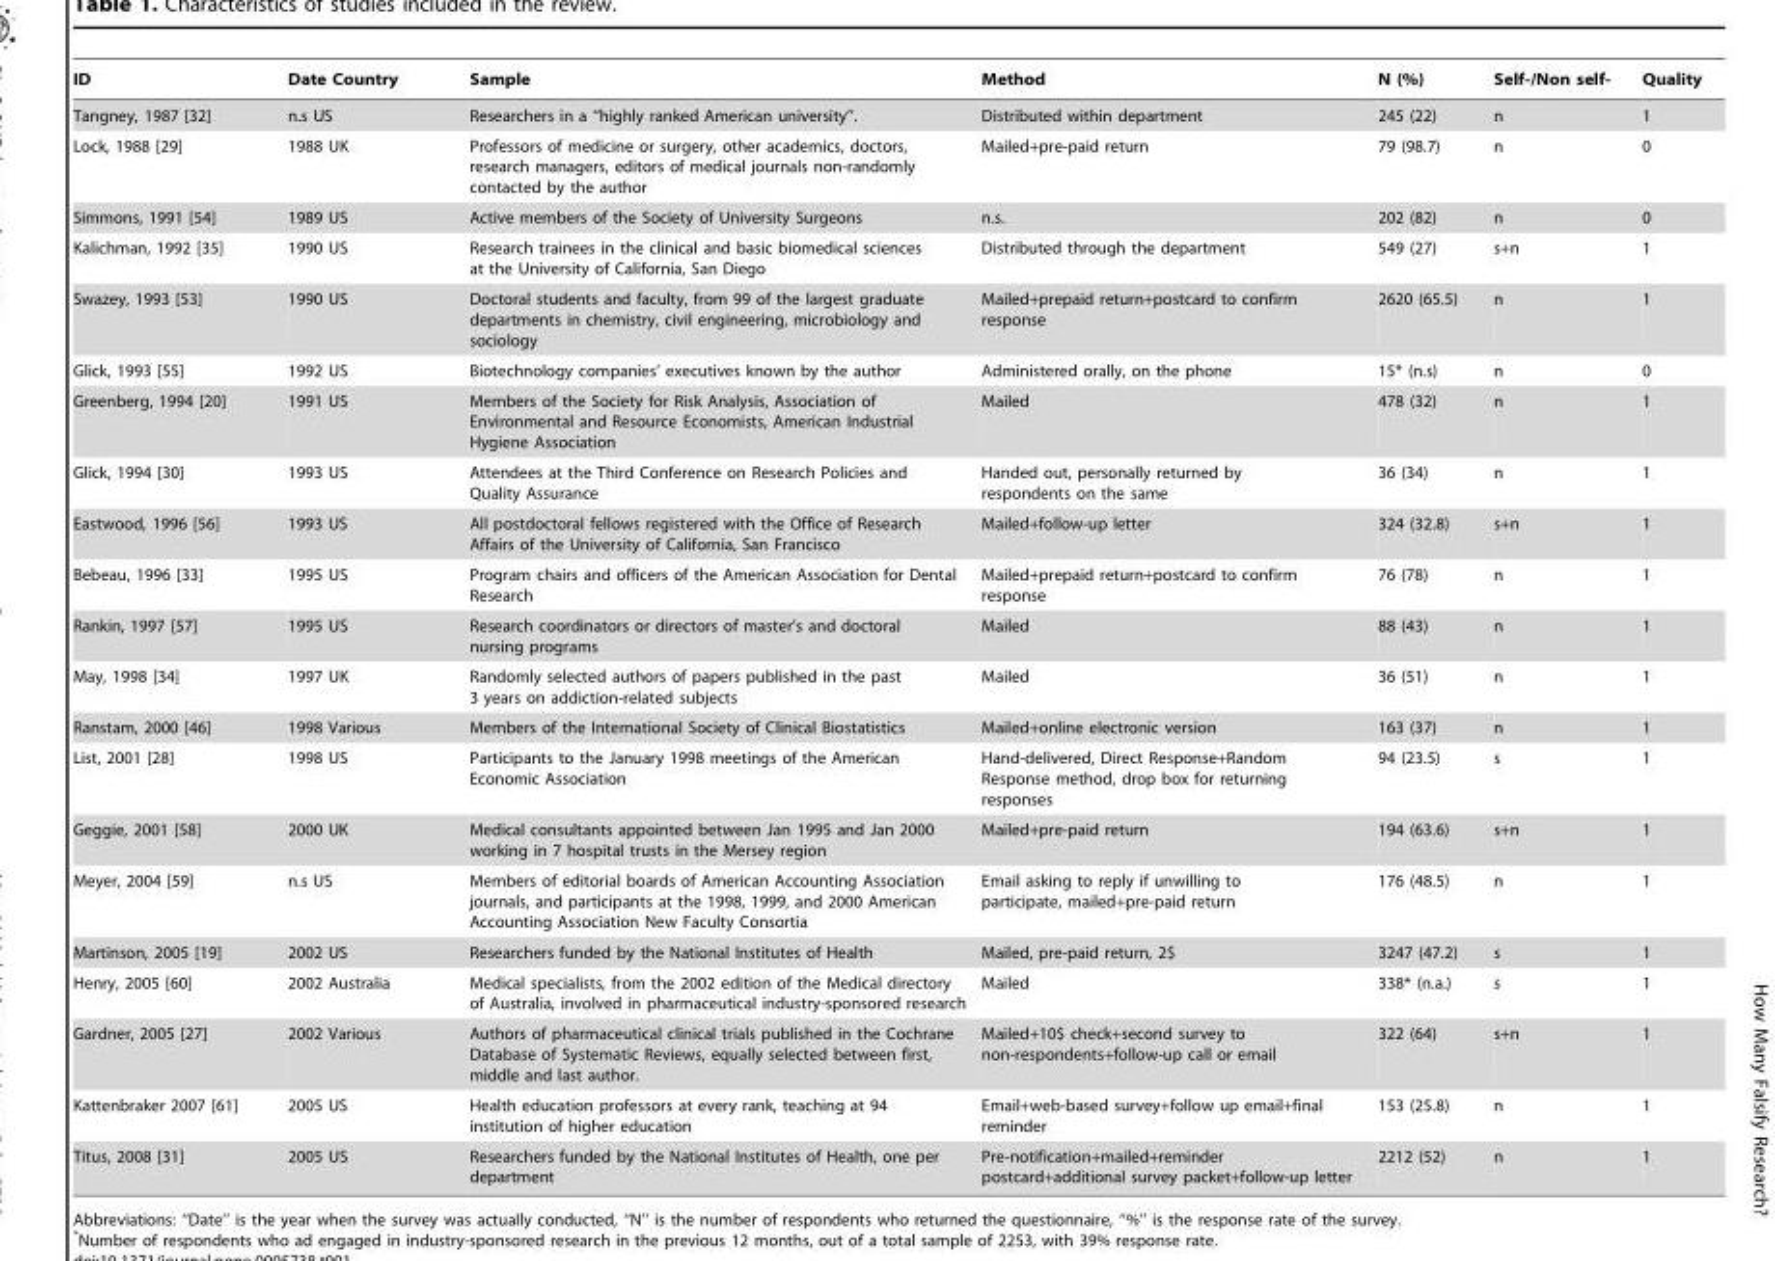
<table><thead><tr><td>ID</td><td>Date Country</td><td>Sample</td><td>Method</td><td>N (%)</td><td>Self-/Non self-</td><td>Quality</td></tr></thead><tbody><tr><td>Tangney, 1987 [32]</td><td>n.s US</td><td>Researchers in a ‘‘highly ranked American university’’.</td><td>Distributed within department</td><td>245 (22)</td><td>n</td><td>1</td></tr><tr><td>Lock, 1988 [29]</td><td>1988 UK</td><td>Professors of medicine or surgery, other academics, doctors, research managers, editors of medical journals non-randomly contacted by the author</td><td>Mailed+pre-paid return</td><td>79 (98.7)</td><td>n</td><td>0</td></tr><tr><td>Simmons, 1991 [54]</td><td>1989 US</td><td>Active members of the Society of University Surgeons</td><td>n.s.</td><td>202 (82)</td><td>n</td><td>0</td></tr><tr><td>Kalichman, 1992 [35]</td><td>1990 US</td><td>Research trainees in the clinical and basic biomedical sciences at the University of California, San Diego</td><td>Distributed through the department</td><td>549 (27)</td><td>s+n</td><td>1</td></tr><tr><td>Swazey, 1993 [53]</td><td>1990 US</td><td>Doctoral students and faculty, from 99 of the largest graduate departments in chemistry, civil engineering, microbiology and sociology</td><td>Mailed+prepaid return+postcard to confirm response</td><td>2620 (65.5)</td><td>n</td><td>1</td></tr><tr><td>Glick, 1993 [55]</td><td>1992 US</td><td>Biotechnology companies’ executives known by the author</td><td>Administered orally, on the phone</td><td>15* (n.s)</td><td>n</td><td>0</td></tr><tr><td>Greenberg, 1994 [20]</td><td>1991 US</td><td>Members of the Society for Risk Analysis, Association of Environmental and Resource Economists, American Industrial Hygiene Association</td><td>Mailed</td><td>478 (32)</td><td>n</td><td>1</td></tr><tr><td>Glick, 1994 [30]</td><td>1993 US</td><td>Attendees at the Third Conference on Research Policies and Quality Assurance</td><td>Handed out, personally returned by respondents on the same</td><td>36 (34)</td><td>n</td><td>1</td></tr><tr><td>Eastwood, 1996 [56]</td><td>1993 US</td><td>All postdoctoral fellows registered with the Office of Research Affairs of the University of California, San Francisco</td><td>Mailed+follow-up letter</td><td>324 (32.8)</td><td>s+n</td><td>1</td></tr><tr><td>Bebeau, 1996 [33]</td><td>1995 US</td><td>Program chairs and officers of the American Association for Dental Research</td><td>Mailed+prepaid return+postcard to confirm response</td><td>76 (78)</td><td>n</td><td>1</td></tr><tr><td>Rankin, 1997 [57]</td><td>1995 US</td><td>Research coordinators or directors of master’s and doctoral nursing programs</td><td>Mailed</td><td>88 (43)</td><td>n</td><td>1</td></tr><tr><td>May, 1998 [34]</td><td>1997 UK</td><td>Randomly selected authors of papers published in the past 3 years on addiction-related subjects</td><td>Mailed</td><td>36 (51)</td><td>n</td><td>1</td></tr><tr><td>Ranstam, 2000 [46]</td><td>1998 Various</td><td>Members of the International Society of Clinical Biostatistics</td><td>Mailed+online electronic version</td><td>163 (37)</td><td>n</td><td>1</td></tr><tr><td>List, 2001 [28]</td><td>1998 US</td><td>Participants to the January 1998 meetings of the American Economic Association</td><td>Hand-delivered, Direct Response+Random Response method, drop box for returning responses</td><td>94 (23.5)</td><td>s</td><td>1</td></tr><tr><td>Geggie, 2001 [58]</td><td>2000 UK</td><td>Medical consultants appointed between Jan 1995 and Jan 2000 working in 7 hospital trusts in the Mersey region</td><td>Mailed+pre-paid return</td><td>194 (63.6)</td><td>s+n</td><td>1</td></tr><tr><td>Meyer, 2004 [59]</td><td>n.s US</td><td>Members of editorial boards of American Accounting Association journals, and participants at the 1998, 1999, and 2000 American Accounting Association New Faculty Consortia</td><td>Email asking to reply if unwilling to participate, mailed+pre-paid return</td><td>176 (48.5)</td><td>n</td><td>1</td></tr><tr><td>Martinson, 2005 [19]</td><td>2002 US</td><td>Researchers funded by the National Institutes of Health</td><td>Mailed, pre-paid return, 2$</td><td>3247 (47.2)</td><td>s</td><td>1</td></tr><tr><td>Henry, 2005 [60]</td><td>2002 Australia</td><td>Medical specialists, from the 2002 edition of the Medical directory of Australia, involved in pharmaceutical industry-sponsored research</td><td>Mailed</td><td>338* (n.a.)</td><td>s</td><td>1</td></tr><tr><td>Gardner, 2005 [27]</td><td>2002 Various</td><td>Authors of pharmaceutical clinical trials published in the Cochrane Database of Systematic Reviews, equally selected between first, middle and last author.</td><td>Mailed+10$ check+second survey to non-respondents+follow-up call or email</td><td>322 (64)</td><td>s+n</td><td>1</td></tr><tr><td>Kattenbraker 2007 [61]</td><td>2005 US</td><td>Health education professors at every rank, teaching at 94 institution of higher education</td><td>Email+web-based survey+follow up email+final reminder</td><td>153 (25.8)</td><td>n</td><td>1</td></tr><tr><td>Titus, 2008 [31]</td><td>2005 US</td><td>Researchers funded by the National Institutes of Health, one per department</td><td>Pre-notification+mailed+reminder postcard+additional survey packet+follow-up letter</td><td>2212 (52)</td><td>n</td><td>1</td></tr></tbody></table>